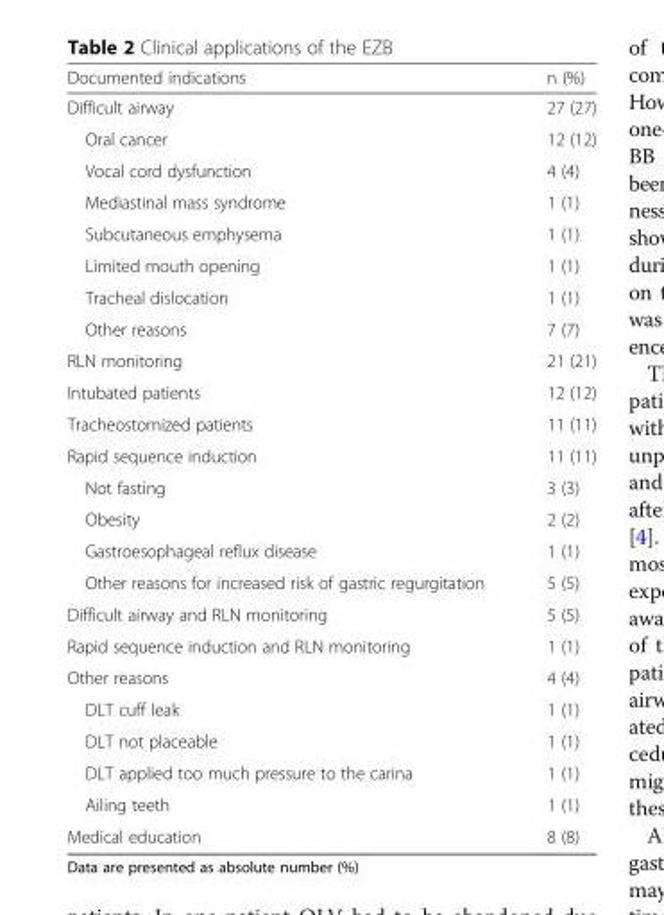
<table><thead><tr><td>Documented indications</td><td>n (%)</td></tr></thead><tbody><tr><td>Difficult airway</td><td>27 (27)</td></tr><tr><td>Oral cancer</td><td>12 (12)</td></tr><tr><td>Vocal cord dysfunction</td><td>4 (4)</td></tr><tr><td>Mediastinal mass syndrome</td><td>1 (1)</td></tr><tr><td>Subcutaneous emphysema</td><td>1 (1)</td></tr><tr><td>Limited mouth opening</td><td>1 (1)</td></tr><tr><td>Tracheal dislocation</td><td>1 (1)</td></tr><tr><td>Other reasons</td><td>7 (7)</td></tr><tr><td>RLN monitoring</td><td>21 (21)</td></tr><tr><td>Intubated patients</td><td>12 (12)</td></tr><tr><td>Tracheostomized patients</td><td>11 (11)</td></tr><tr><td>Rapid sequence induction</td><td>11 (11)</td></tr><tr><td>Not fasting</td><td>3 (3)</td></tr><tr><td>Obesity</td><td>2 (2)</td></tr><tr><td>Gastroesophageal reflux disease</td><td>1 (1)</td></tr><tr><td>Other reasons for increased risk of gastric regurgitation</td><td>5 (5)</td></tr><tr><td>Difficult airway and RLN monitoring</td><td>5 (5)</td></tr><tr><td>Rapid sequence induction and RLN monitoring</td><td>1 (1)</td></tr><tr><td>Other reasons</td><td>4 (4)</td></tr><tr><td>DLT cuff leak</td><td>1 (1)</td></tr><tr><td>DLT not placeable</td><td>1 (1)</td></tr><tr><td>DLT applied too much pressure to the carina</td><td>1 (1)</td></tr><tr><td>Ailing teeth</td><td>1 (1)</td></tr><tr><td>Medical education</td><td>8 (8)</td></tr></tbody></table>